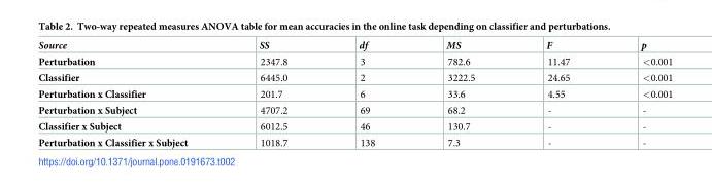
<table><thead><tr><td>Source</td><td>SS</td><td>df</td><td>MS</td><td>F</td><td>p</td></tr></thead><tbody><tr><td>Perturbation</td><td>2347.8</td><td>3</td><td>782.6</td><td>11.47</td><td>&lt;0.001</td></tr><tr><td>Classifier</td><td>6445.0</td><td>2</td><td>3222.5</td><td>24.65</td><td>&lt;0.001</td></tr><tr><td>Perturbation x Classifier</td><td>201.7</td><td>6</td><td>33.6</td><td>4.55</td><td>&lt;0.001</td></tr><tr><td>Perturbation x Subject</td><td>4707.2</td><td>69</td><td>68.2</td><td>-</td><td>-</td></tr><tr><td>Classifier x Subject</td><td>6012.5</td><td>46</td><td>130.7</td><td>-</td><td>-</td></tr><tr><td>Perturbation x Classifier x Subject</td><td>1018.7</td><td>138</td><td>7.3</td><td>-</td><td>-</td></tr></tbody></table>